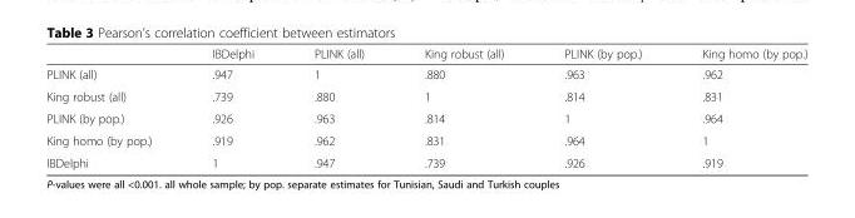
<table><thead><tr><td></td><td>IBDelphi</td><td>PLINK (all)</td><td>King robust (all)</td><td>PLINK (by pop.)</td><td>King homo (by pop.)</td></tr></thead><tbody><tr><td>PLINK (all)</td><td>.947</td><td>1</td><td>.880</td><td>.963</td><td>.962</td></tr><tr><td>King robust (all)</td><td>.739</td><td>.880</td><td>1</td><td>.814</td><td>.831</td></tr><tr><td>PLINK (by pop.)</td><td>.926</td><td>.963</td><td>.814</td><td>1</td><td>.964</td></tr><tr><td>King homo (by pop.)</td><td>.919</td><td>.962</td><td>.831</td><td>.964</td><td>1</td></tr><tr><td>IBDelphi</td><td>1</td><td>.947</td><td>.739</td><td>.926</td><td>.919</td></tr></tbody></table>